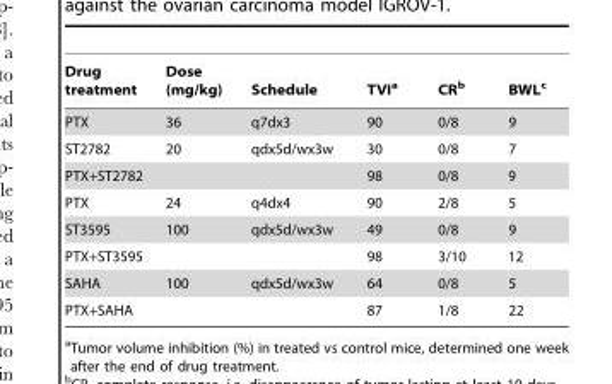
<table><thead><tr><td>Drug treatment</td><td>Dose (mg/kg)</td><td>Schedule</td><td>TVIa</td><td>CRb</td><td>BWLc</td></tr></thead><tbody><tr><td>PTX</td><td>36</td><td>q7dx3</td><td>90</td><td>0/8</td><td>9</td></tr><tr><td>ST2782</td><td>20</td><td>qdx5d/wx3w</td><td>30</td><td>0/8</td><td>7</td></tr><tr><td>PTX+ST2782</td><td></td><td></td><td>98</td><td>0/8</td><td>9</td></tr><tr><td>PTX</td><td>24</td><td>q4dx4</td><td>90</td><td>2/8</td><td>5</td></tr><tr><td>ST3595</td><td>100</td><td>qdx5d/wx3w</td><td>49</td><td>0/8</td><td>9</td></tr><tr><td>PTX+ST3595</td><td></td><td></td><td>98</td><td>3/10</td><td>12</td></tr><tr><td>SAHA</td><td>100</td><td>qdx5d/wx3w</td><td>64</td><td>0/8</td><td>5</td></tr><tr><td>PTX+SAHA</td><td></td><td></td><td>87</td><td>1/8</td><td>22</td></tr></tbody></table>